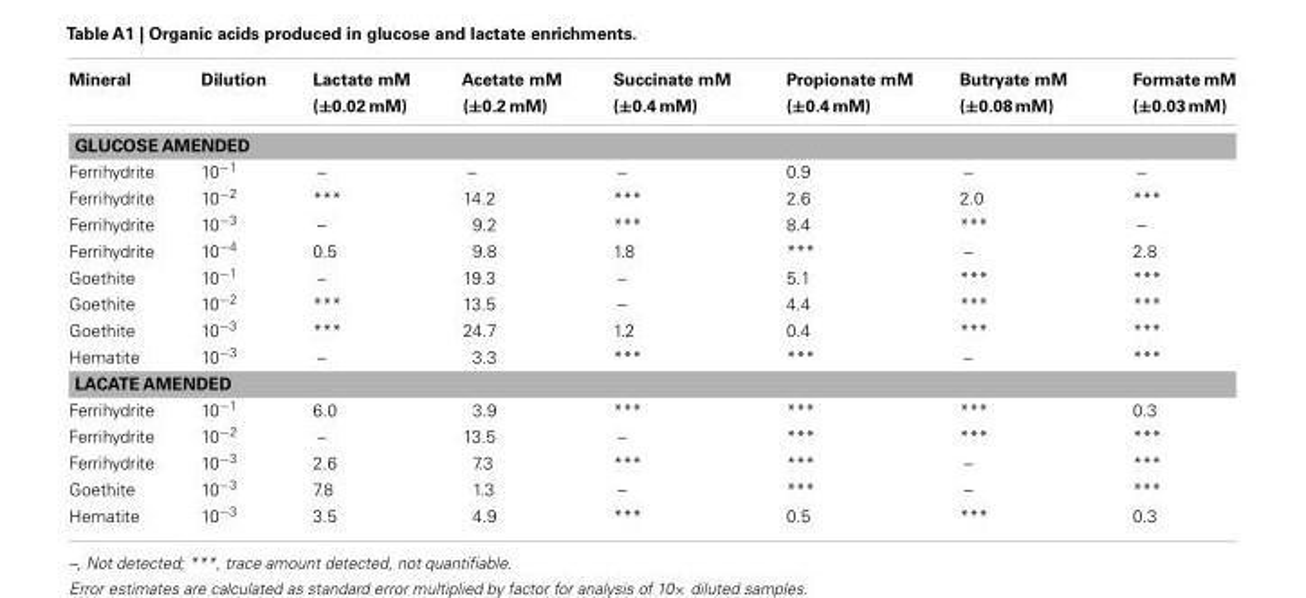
<table><thead><tr><td>Mineral</td><td>Dilution</td><td>Lactate mM (±0.02 mM)</td><td>Acetate mM (±0.2 mM)</td><td>Succinate mM (±0.4 mM)</td><td>Propionate mM (±0.4 mM)</td><td>Butryate mM (±0.08 mM)</td><td>Formate mM (±0.03 mM)</td></tr></thead><tbody><tr><td colspan="8">GLUCOSE AMENDED</td></tr><tr><td>Ferrihydrite</td><td>10<sup>−1</sup></td><td>–</td><td>–</td><td>–</td><td>0.9</td><td>–</td><td>–</td></tr><tr><td>Ferrihydrite</td><td>10<sup>−2</sup></td><td>***</td><td>14.2</td><td>***</td><td>2.6</td><td>2.0</td><td>***</td></tr><tr><td>Ferrihydrite</td><td>10<sup>−3</sup></td><td>–</td><td>9.2</td><td>***</td><td>8.4</td><td>***</td><td>–</td></tr><tr><td>Ferrihydrite</td><td>10<sup>−4</sup></td><td>0.5</td><td>9.8</td><td>1.8</td><td>***</td><td>–</td><td>2.8</td></tr><tr><td>Goethite</td><td>10<sup>−1</sup></td><td>–</td><td>19.3</td><td>–</td><td>5.1</td><td>***</td><td>***</td></tr><tr><td>Goethite</td><td>10<sup>−2</sup></td><td>***</td><td>13.5</td><td>–</td><td>4.4</td><td>***</td><td>***</td></tr><tr><td>Goethite</td><td>10<sup>−3</sup></td><td>***</td><td>24.7</td><td>1.2</td><td>0.4</td><td>***</td><td>***</td></tr><tr><td>Hematite</td><td>10<sup>−3</sup></td><td>–</td><td>3.3</td><td>***</td><td>***</td><td>–</td><td>***</td></tr><tr><td colspan="8">LACATE AMENDED</td></tr><tr><td>Ferrihydrite</td><td>10<sup>−1</sup></td><td>6.0</td><td>3.9</td><td>***</td><td>***</td><td>***</td><td>0.3</td></tr><tr><td>Ferrihydrite</td><td>10<sup>−2</sup></td><td>–</td><td>13.5</td><td>–</td><td>***</td><td>***</td><td>***</td></tr><tr><td>Ferrihydrite</td><td>10<sup>−3</sup></td><td>2.6</td><td>7.3</td><td>***</td><td>***</td><td>–</td><td>***</td></tr><tr><td>Goethite</td><td>10<sup>−3</sup></td><td>7.8</td><td>1.3</td><td>–</td><td>***</td><td>–</td><td>***</td></tr><tr><td>Hematite</td><td>10<sup>−3</sup></td><td>3.5</td><td>4.9</td><td>***</td><td>0.5</td><td>***</td><td>0.3</td></tr></tbody></table>